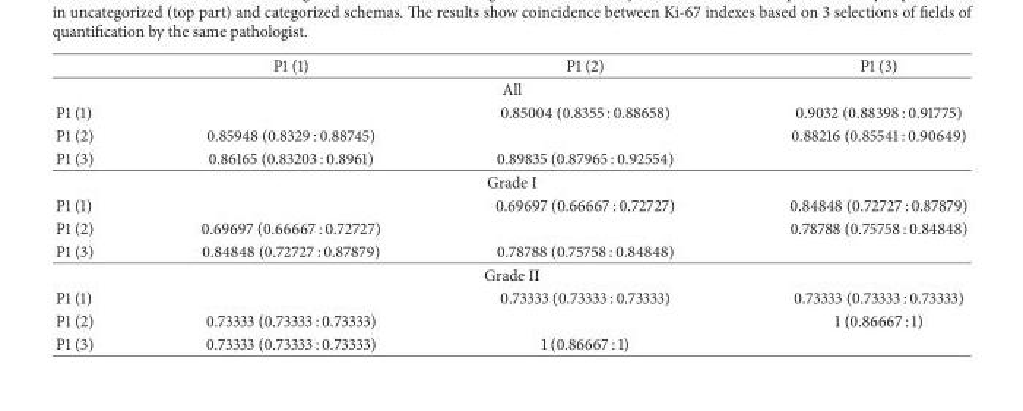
<table><thead><tr><td></td><td>P1 (1)</td><td>P1 (2)</td><td>P1 (3)</td></tr></thead><tbody><tr><td colspan="4">All</td></tr><tr><td>P1 (1)</td><td></td><td>0.85004 (0.8355 : 0.88658)</td><td>0.9032 (0.88398 : 0.91775)</td></tr><tr><td>P1 (2)</td><td>0.85948 (0.8329 : 0.88745)</td><td></td><td>0.88216 (0.85541 : 0.90649)</td></tr><tr><td>P1 (3)</td><td>0.86165 (0.83203 : 0.8961)</td><td>0.89835 (0.87965 : 0.92554)</td><td></td></tr><tr><td colspan="4">Grade I</td></tr><tr><td>P1 (1)</td><td></td><td>0.69697 (0.66667 : 0.72727)</td><td>0.84848 (0.72727 : 0.87879)</td></tr><tr><td>P1 (2)</td><td>0.69697 (0.66667 : 0.72727)</td><td></td><td>0.78788 (0.75758 : 0.84848)</td></tr><tr><td>P1 (3)</td><td>0.84848 (0.72727 : 0.87879)</td><td>0.78788 (0.75758 : 0.84848)</td><td></td></tr><tr><td colspan="4">Grade II</td></tr><tr><td>P1 (1)</td><td></td><td>0.73333 (0.73333 : 0.73333)</td><td>0.73333 (0.73333 : 0.73333)</td></tr><tr><td>P1 (2)</td><td>0.73333 (0.73333 : 0.73333)</td><td></td><td>1 (0.86667 : 1)</td></tr><tr><td>P1 (3)</td><td>0.73333 (0.73333 : 0.73333)</td><td>1 (0.86667 : 1)</td><td></td></tr></tbody></table>